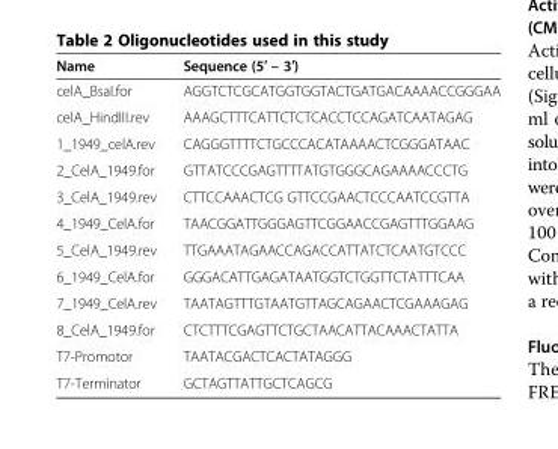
<table><thead><tr><td>Name</td><td>Sequence (5′ – 3′)</td></tr></thead><tbody><tr><td>celA_BsaI.for</td><td>AGGTCTCGCATGGTGGTACTGATGACAAAACCGGGAA</td></tr><tr><td>celA_HindIII.rev</td><td>AAAGCTTTCATTCTCTCACCTCCAGATCAATAGAG</td></tr><tr><td>1_1949_celA.rev</td><td>CAGGGTTTTCTGCCCACATAAAACTCGGGATAAC</td></tr><tr><td>2_CelA_1949.for</td><td>GTTATCCCGAGTTTTATGTGGGCAGAAAACCCTG</td></tr><tr><td>3_CelA_1949.rev</td><td>CTTCCAAACTCG GTTCCGAACTCCCAATCCGTTA</td></tr><tr><td>4_1949_CelA.for</td><td>TAACGGATTGGGAGTTCGGAACCGAGTTTGGAAG</td></tr><tr><td>5_CelA_1949.rev</td><td>TTGAAATAGAACCAGACCATTATCTCAATGTCCC</td></tr><tr><td>6_1949_CelA.for</td><td>GGGACATTGAGATAATGGTCTGGTTCTATTTCAA</td></tr><tr><td>7_1949_CelA.rev</td><td>TAATAGTTTGTAATGTTAGCAGAACTCGAAAGAG</td></tr><tr><td>8_CelA_1949.for</td><td>CTCTTTCGAGTTCTGCTAACATTACAAACTATTA</td></tr><tr><td>T7-Promotor</td><td>TAATACGACTCACTATAGGG</td></tr><tr><td>T7-Terminator</td><td>GCTAGTTATTGCTCAGCG</td></tr></tbody></table>